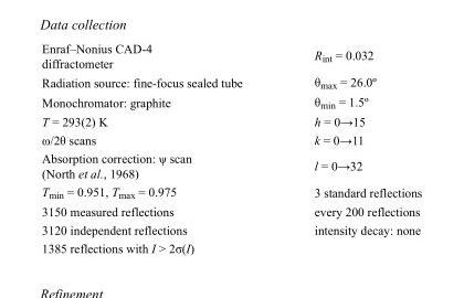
<table><tbody><tr><td>Enraf–Nonius CAD-4 diffractometer</td><td>R<sub>int</sub> = 0.032</td></tr><tr><td>Radiation source: fine-focus sealed tube</td><td>θ<sub>max</sub> = 26.0º</td></tr><tr><td>Monochromator: graphite</td><td>θ<sub>min</sub> = 1.5º</td></tr><tr><td>T = 293(2) K</td><td>h = 0→15</td></tr><tr><td>ω/2θ scans</td><td>k = 0→11</td></tr><tr><td>Absorption correction: ψ scan (North et al., 1968)</td><td>l = 0→32</td></tr><tr><td>T<sub>min</sub> = 0.951, T<sub>max</sub> = 0.975</td><td>3 standard reflections</td></tr><tr><td>3150 measured reflections</td><td>every 200 reflections</td></tr><tr><td>3120 independent reflections</td><td>intensity decay: none</td></tr><tr><td>1385 reflections with I &gt; 2σ(I)</td><td></td></tr></tbody></table>